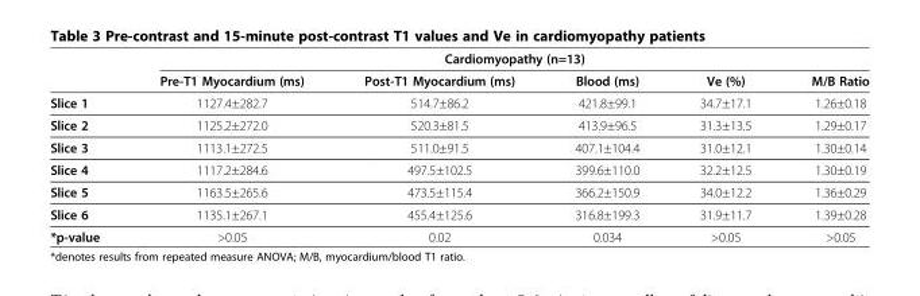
<table><thead><tr><td rowspan="2"></td><td colspan="5">Cardiomyopathy (n=13)</td></tr><tr><td>Pre-T1 Myocardium (ms)</td><td>Post-T1 Myocardium (ms)</td><td>Blood (ms)</td><td>Ve (%)</td><td>M/B Ratio</td></tr></thead><tbody><tr><td>Slice 1</td><td>1127.4±282.7</td><td>514.7±86.2</td><td>421.8±99.1</td><td>34.7±17.1</td><td>1.26±0.18</td></tr><tr><td>Slice 2</td><td>1125.2±272.0</td><td>520.3±81.5</td><td>413.9±96.5</td><td>31.3±13.5</td><td>1.29±0.17</td></tr><tr><td>Slice 3</td><td>1113.1±272.5</td><td>511.0±91.5</td><td>407.1±104.4</td><td>31.0±12.1</td><td>1.30±0.14</td></tr><tr><td>Slice 4</td><td>1117.2±284.6</td><td>497.5±102.5</td><td>399.6±110.0</td><td>32.2±12.5</td><td>1.30±0.19</td></tr><tr><td>Slice 5</td><td>1163.5±265.6</td><td>473.5±115.4</td><td>366.2±150.9</td><td>34.0±12.2</td><td>1.36±0.29</td></tr><tr><td>Slice 6</td><td>1135.1±267.1</td><td>455.4±125.6</td><td>316.8±199.3</td><td>31.9±11.7</td><td>1.39±0.28</td></tr><tr><td>*p-value</td><td>&gt;0.05</td><td>0.02</td><td>0.034</td><td>&gt;0.05</td><td>&gt;0.05</td></tr></tbody></table>